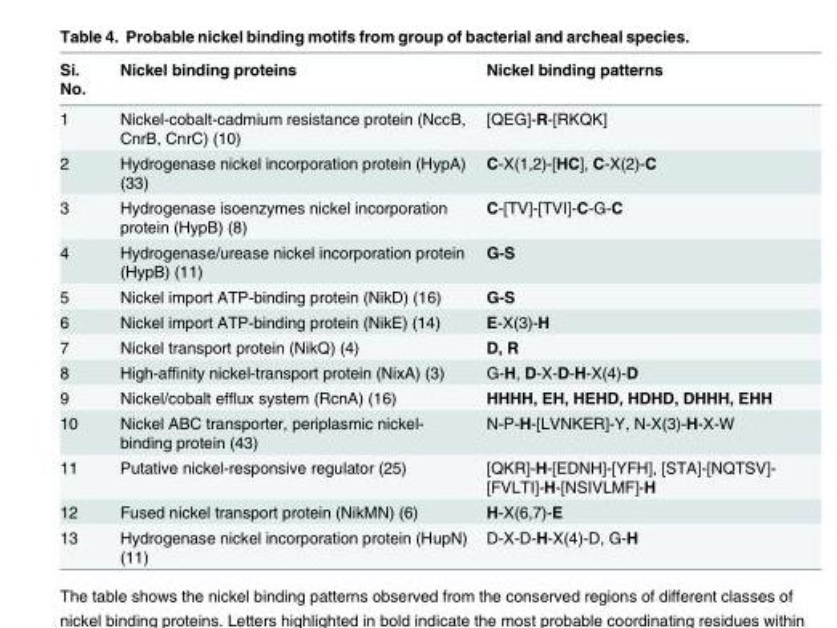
<table><thead><tr><td>Si. No.</td><td>Nickel binding proteins</td><td>Nickel binding patterns</td></tr></thead><tbody><tr><td>1</td><td>Nickel-cobalt-cadmium resistance protein (NccB, CnrB, CnrC) (10)</td><td>[QEG]-R-[RKQK]</td></tr><tr><td>2</td><td>Hydrogenase nickel incorporation protein (HypA) (33)</td><td>C-X(1,2)-[HC], C-X(2)-C</td></tr><tr><td>3</td><td>Hydrogenase isoenzymes nickel incorporation protein (HypB) (8)</td><td>C-[TV]-[TVI]-C-G-C</td></tr><tr><td>4</td><td>Hydrogenase/urease nickel incorporation protein (HypB) (11)</td><td>G-S</td></tr><tr><td>5</td><td>Nickel import ATP-binding protein (NikD) (16)</td><td>G-S</td></tr><tr><td>6</td><td>Nickel import ATP-binding protein (NikE) (14)</td><td>E-X(3)-H</td></tr><tr><td>7</td><td>Nickel transport protein (NikQ) (4)</td><td>D, R</td></tr><tr><td>8</td><td>High-affinity nickel-transport protein (NixA) (3)</td><td>G-H, D-X-D-H-X(4)-D</td></tr><tr><td>9</td><td>Nickel/cobalt efflux system (RcnA) (16)</td><td>HHHH, EH, HEHD, HDHD, DHHH, EHH</td></tr><tr><td>10</td><td>Nickel ABC transporter, periplasmic nickel- binding protein (43)</td><td>N-P-H-[LVNKER]-Y, N-X(3)-H-X-W</td></tr><tr><td>11</td><td>Putative nickel-responsive regulator (25)</td><td>[QKR]-H-[EDNH]-[YFH], [STA]-[NQTSV]- [FVLTI]-H-[NSIVLMF]-H</td></tr><tr><td>12</td><td>Fused nickel transport protein (NikMN) (6)</td><td>H-X(6,7)-E</td></tr><tr><td>13</td><td>Hydrogenase nickel incorporation protein (HupN) (11)</td><td>D-X-D-H-X(4)-D, G-H</td></tr></tbody></table>